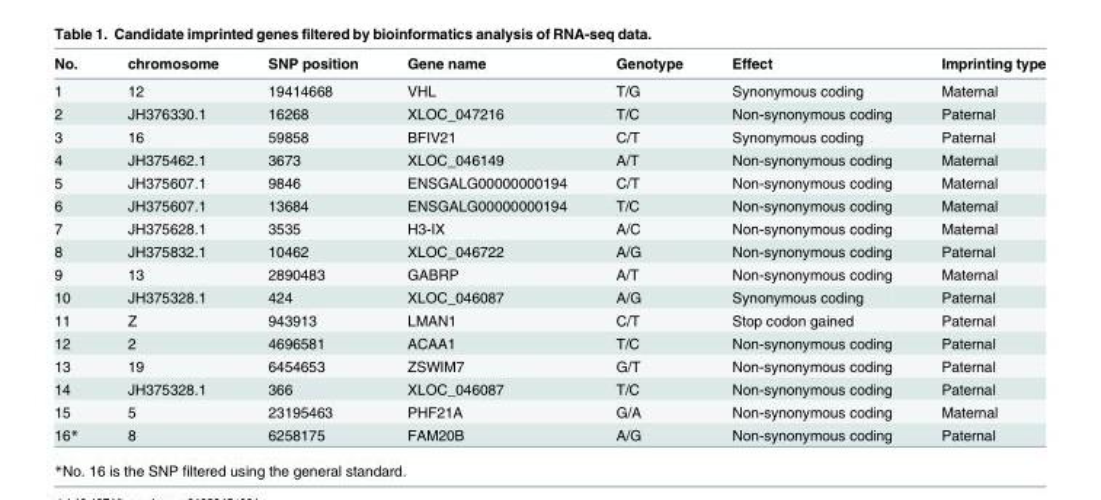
<table><thead><tr><td>No.</td><td>chromosome</td><td>SNP position</td><td>Gene name</td><td>Genotype</td><td>Effect</td><td>Imprinting type</td></tr></thead><tbody><tr><td>1</td><td>12</td><td>19414668</td><td>VHL</td><td>T/G</td><td>Synonymous coding</td><td>Maternal</td></tr><tr><td>2</td><td>JH376330.1</td><td>16268</td><td>XLOC_047216</td><td>T/C</td><td>Non-synonymous coding</td><td>Paternal</td></tr><tr><td>3</td><td>16</td><td>59858</td><td>BFIV21</td><td>C/T</td><td>Synonymous coding</td><td>Paternal</td></tr><tr><td>4</td><td>JH375462.1</td><td>3673</td><td>XLOC_046149</td><td>A/T</td><td>Non-synonymous coding</td><td>Maternal</td></tr><tr><td>5</td><td>JH375607.1</td><td>9846</td><td>ENSGALG00000000194</td><td>C/T</td><td>Non-synonymous coding</td><td>Maternal</td></tr><tr><td>6</td><td>JH375607.1</td><td>13684</td><td>ENSGALG00000000194</td><td>T/C</td><td>Non-synonymous coding</td><td>Maternal</td></tr><tr><td>7</td><td>JH375628.1</td><td>3535</td><td>H3-IX</td><td>A/C</td><td>Non-synonymous coding</td><td>Maternal</td></tr><tr><td>8</td><td>JH375832.1</td><td>10462</td><td>XLOC_046722</td><td>A/G</td><td>Non-synonymous coding</td><td>Paternal</td></tr><tr><td>9</td><td>13</td><td>2890483</td><td>GABRP</td><td>A/T</td><td>Non-synonymous coding</td><td>Maternal</td></tr><tr><td>10</td><td>JH375328.1</td><td>424</td><td>XLOC_046087</td><td>A/G</td><td>Synonymous coding</td><td>Paternal</td></tr><tr><td>11</td><td>Z</td><td>943913</td><td>LMAN1</td><td>C/T</td><td>Stop codon gained</td><td>Paternal</td></tr><tr><td>12</td><td>2</td><td>4696581</td><td>ACAA1</td><td>T/C</td><td>Non-synonymous coding</td><td>Paternal</td></tr><tr><td>13</td><td>19</td><td>6454653</td><td>ZSWIM7</td><td>G/T</td><td>Non-synonymous coding</td><td>Paternal</td></tr><tr><td>14</td><td>JH375328.1</td><td>366</td><td>XLOC_046087</td><td>T/C</td><td>Non-synonymous coding</td><td>Paternal</td></tr><tr><td>15</td><td>5</td><td>23195463</td><td>PHF21A</td><td>G/A</td><td>Non-synonymous coding</td><td>Maternal</td></tr><tr><td>16*</td><td>8</td><td>6258175</td><td>FAM20B</td><td>A/G</td><td>Non-synonymous coding</td><td>Paternal</td></tr></tbody></table>